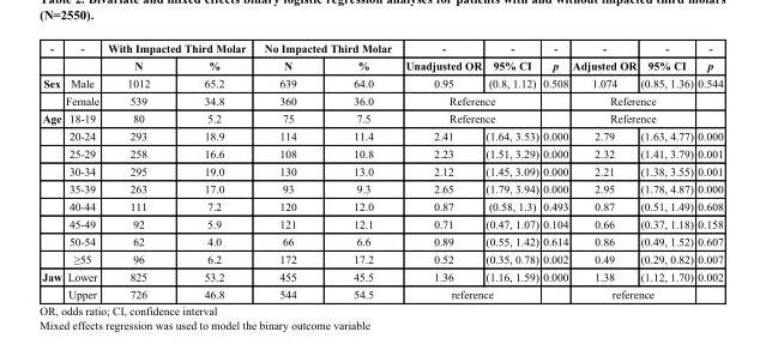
<table><thead><tr><td rowspan="2">-</td><td rowspan="2">-</td><td colspan="2">With Impacted Third Molar</td><td colspan="2">No Impacted Third Molar</td><td rowspan="2">- Unadjusted OR</td><td rowspan="2">- 95% CI</td><td rowspan="2">- p</td><td rowspan="2">- Adjusted OR</td><td rowspan="2">- 95% CI</td><td rowspan="2">- p</td></tr><tr><td>N</td><td>%</td><td>N</td><td>%</td></tr></thead><tbody><tr><td rowspan="2">Sex</td><td>Male</td><td>1012</td><td>65.2</td><td>639</td><td>64.0</td><td>0.95</td><td>(0.8, 1.12)</td><td>0.508</td><td>1.074</td><td>(0.85, 1.36)</td><td>0.544</td></tr><tr><td>Female</td><td>539</td><td>34.8</td><td>360</td><td>36.0</td><td colspan="2">Reference</td><td></td><td colspan="2">Reference</td><td></td></tr><tr><td rowspan="9">Age</td><td>18-19</td><td>80</td><td>5.2</td><td>75</td><td>7.5</td><td colspan="2">Reference</td><td></td><td colspan="2">Reference</td><td></td></tr><tr><td>20-24</td><td>293</td><td>18.9</td><td>114</td><td>11.4</td><td>2.41</td><td>(1.64, 3.53)</td><td>0.000</td><td>2.79</td><td>(1.63, 4.77)</td><td>0.000</td></tr><tr><td>25-29</td><td>258</td><td>16.6</td><td>108</td><td>10.8</td><td>2.23</td><td>(1.51, 3.29)</td><td>0.000</td><td>2.32</td><td>(1.41, 3.79)</td><td>0.001</td></tr><tr><td>30-34</td><td>295</td><td>19.0</td><td>130</td><td>13.0</td><td>2.12</td><td>(1.45, 3.09)</td><td>0.000</td><td>2.21</td><td>(1.38, 3.55)</td><td>0.001</td></tr><tr><td>35-39</td><td>263</td><td>17.0</td><td>93</td><td>9.3</td><td>2.65</td><td>(1.79, 3.94)</td><td>0.000</td><td>2.95</td><td>(1.78, 4.87)</td><td>0.000</td></tr><tr><td>40-44</td><td>111</td><td>7.2</td><td>120</td><td>12.0</td><td>0.87</td><td>(0.58, 1.3)</td><td>0.493</td><td>0.87</td><td>(0.51, 1.49)</td><td>0.608</td></tr><tr><td>45-49</td><td>92</td><td>5.9</td><td>121</td><td>12.1</td><td>0.71</td><td>(0.47, 1.07)</td><td>0.104</td><td>0.66</td><td>(0.37, 1.18)</td><td>0.158</td></tr><tr><td>50-54</td><td>62</td><td>4.0</td><td>66</td><td>6.6</td><td>0.89</td><td>(0.55, 1.42)</td><td>0.614</td><td>0.86</td><td>(0.49, 1.52)</td><td>0.607</td></tr><tr><td>≥55</td><td>96</td><td>6.2</td><td>172</td><td>17.2</td><td>0.52</td><td>(0.35, 0.78)</td><td>0.002</td><td>0.49</td><td>(0.29, 0.82)</td><td>0.007</td></tr><tr><td rowspan="2">Jaw</td><td>Lower</td><td>825</td><td>53.2</td><td>455</td><td>45.5</td><td>1.36</td><td>(1.16, 1.59)</td><td>0.000</td><td>1.38</td><td>(1.12, 1.70)</td><td>0.002</td></tr><tr><td>Upper</td><td>726</td><td>46.8</td><td>544</td><td>54.5</td><td colspan="2">reference</td><td></td><td colspan="2">reference</td><td></td></tr></tbody></table>